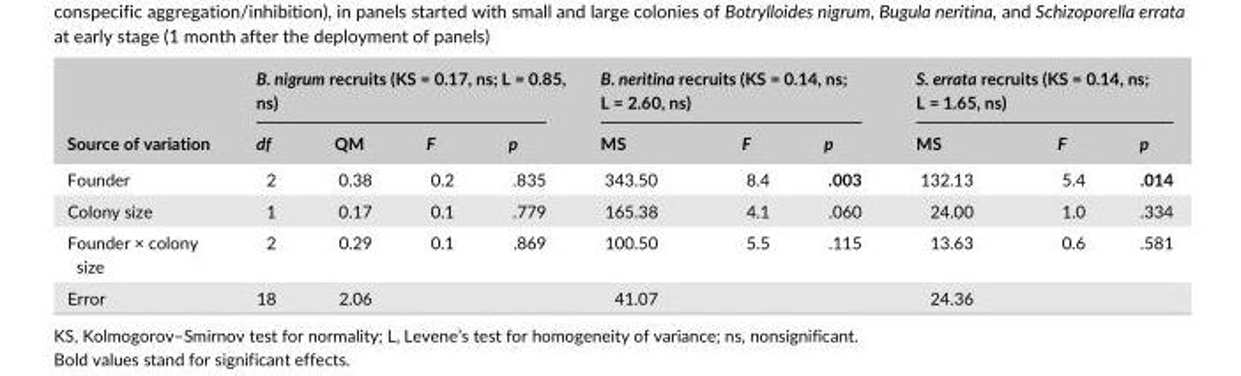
<table><thead><tr><td rowspan="2">Source of variation</td><td colspan="4">B. nigrum recruits (KS = 0.17, ns; L = 0.85, ns)</td><td colspan="3">B. neritina recruits (KS = 0.14, ns; L = 2.60, ns)</td><td colspan="3">S. errata recruits (KS = 0.14, ns; L = 1.65, ns)</td></tr><tr><td>df</td><td>QM</td><td>F</td><td>p</td><td>MS</td><td>F</td><td>p</td><td>MS</td><td>F</td><td>p</td></tr></thead><tbody><tr><td>Founder</td><td>2</td><td>0.38</td><td>0.2</td><td>.835</td><td>343.50</td><td>8.4</td><td>.003</td><td>132.13</td><td>5.4</td><td>.014</td></tr><tr><td>Colony size</td><td>1</td><td>0.17</td><td>0.1</td><td>.779</td><td>165.38</td><td>4.1</td><td>.060</td><td>24.00</td><td>1.0</td><td>.334</td></tr><tr><td>Founder × colony size</td><td>2</td><td>0.29</td><td>0.1</td><td>.869</td><td>100.50</td><td>5.5</td><td>.115</td><td>13.63</td><td>0.6</td><td>.581</td></tr><tr><td>Error</td><td>18</td><td>2.06</td><td></td><td></td><td>41.07</td><td></td><td></td><td>24.36</td><td></td><td></td></tr></tbody></table>